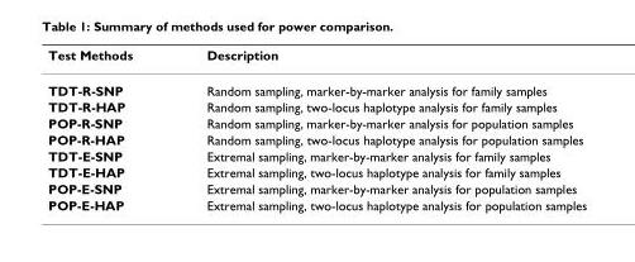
<table><thead><tr><td>Test Methods</td><td>Description</td></tr></thead><tbody><tr><td>TDT-R-SNP</td><td>Random sampling, marker-by-marker analysis for family samples</td></tr><tr><td>TDT-R-HAP</td><td>Random sampling, two-locus haplotype analysis for family samples</td></tr><tr><td>POP-R-SNP</td><td>Random sampling, marker-by-marker analysis for population samples</td></tr><tr><td>POP-R-HAP</td><td>Random sampling, two-locus haplotype analysis for population samples</td></tr><tr><td>TDT-E-SNP</td><td>Extremal sampling, marker-by-marker analysis for family samples</td></tr><tr><td>TDT-E-HAP</td><td>Extremal sampling, two-locus haplotype analysis for family samples</td></tr><tr><td>POP-E-SNP</td><td>Extremal sampling, marker-by-marker analysis for population samples</td></tr><tr><td>POP-E-HAP</td><td>Extremal sampling, two-locus haplotype analysis for population samples</td></tr></tbody></table>